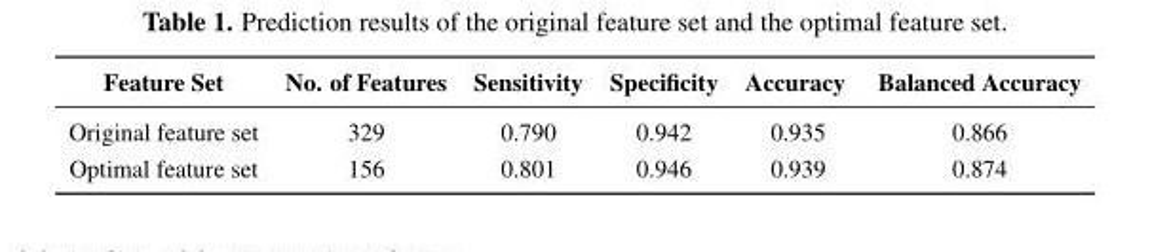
<table><thead><tr><td>Feature Set</td><td>No. of Features</td><td>Sensitivity</td><td>Specificity</td><td>Accuracy</td><td>Balanced Accuracy</td></tr></thead><tbody><tr><td>Original feature set</td><td>329</td><td>0.790</td><td>0.942</td><td>0.935</td><td>0.866</td></tr><tr><td>Optimal feature set</td><td>156</td><td>0.801</td><td>0.946</td><td>0.939</td><td>0.874</td></tr></tbody></table>